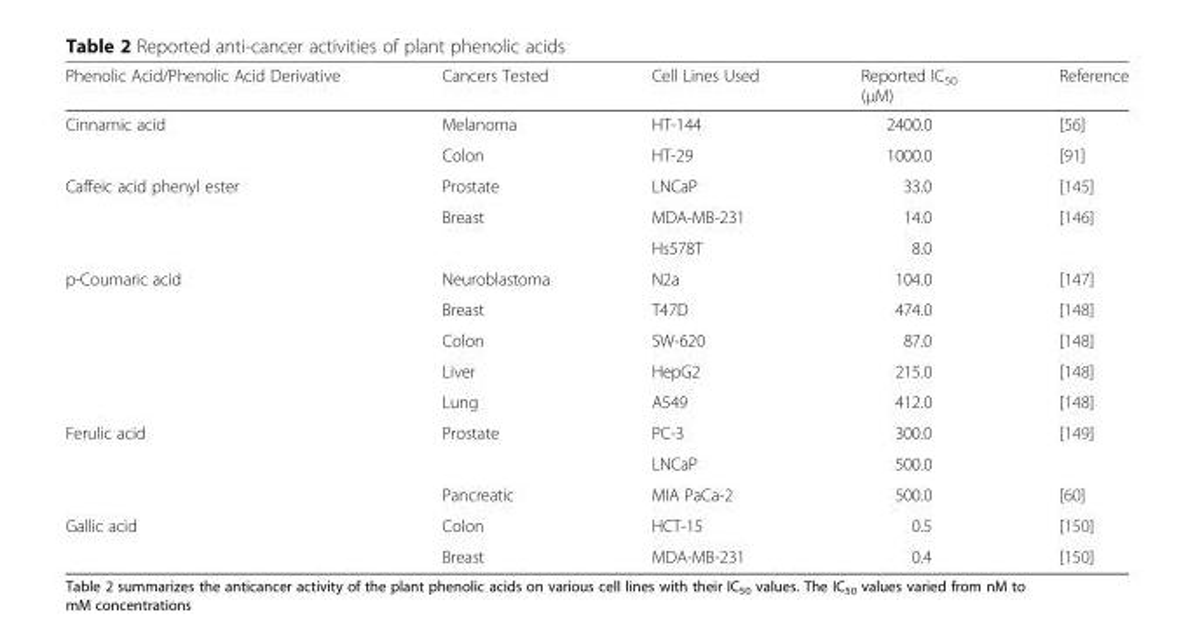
<table><thead><tr><td>Phenolic Acid/Phenolic Acid Derivative</td><td>Cancers Tested</td><td>Cell Lines Used</td><td>Reported IC<sub>50</sub> (μM)</td><td>Reference</td></tr></thead><tbody><tr><td rowspan="2">Cinnamic acid</td><td>Melanoma</td><td>HT-144</td><td>2400.0</td><td>[56]</td></tr><tr><td>Colon</td><td>HT-29</td><td>1000.0</td><td>[91]</td></tr><tr><td rowspan="3">Caffeic acid phenyl ester</td><td>Prostate</td><td>LNCaP</td><td>33.0</td><td>[145]</td></tr><tr><td rowspan="2">Breast</td><td>MDA-MB-231</td><td>14.0</td><td rowspan="2">[146]</td></tr><tr><td>Hs578T</td><td>8.0</td></tr><tr><td rowspan="5">p-Coumaric acid</td><td>Neuroblastoma</td><td>N2a</td><td>104.0</td><td>[147]</td></tr><tr><td>Breast</td><td>T47D</td><td>474.0</td><td>[148]</td></tr><tr><td>Colon</td><td>SW-620</td><td>87.0</td><td>[148]</td></tr><tr><td>Liver</td><td>HepG2</td><td>215.0</td><td>[148]</td></tr><tr><td>Lung</td><td>A549</td><td>412.0</td><td>[148]</td></tr><tr><td rowspan="3">Ferulic acid</td><td rowspan="2">Prostate</td><td>PC-3</td><td>300.0</td><td rowspan="2">[149]</td></tr><tr><td>LNCaP</td><td>500.0</td></tr><tr><td>Pancreatic</td><td>MIA PaCa-2</td><td>500.0</td><td>[60]</td></tr><tr><td rowspan="2">Gallic acid</td><td>Colon</td><td>HCT-15</td><td>0.5</td><td>[150]</td></tr><tr><td>Breast</td><td>MDA-MB-231</td><td>0.4</td><td>[150]</td></tr></tbody></table>